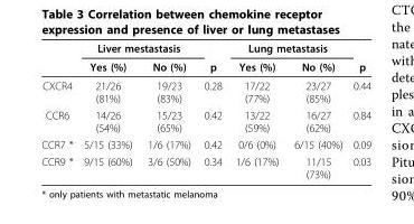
<table><thead><tr><td rowspan="2"></td><td colspan="2">Liver mestastasis</td><td rowspan="2">p</td><td colspan="2">Lung metastasis</td><td rowspan="2">p</td></tr><tr><td>Yes (%)</td><td>No (%)</td><td>Yes (%)</td><td>No (%)</td></tr></thead><tbody><tr><td>CXCR4</td><td>21/26 (81%)</td><td>19/23 (83%)</td><td>0.28</td><td>17/22 (77%)</td><td>23/27 (85%)</td><td>0.44</td></tr><tr><td>CCR6</td><td>14/26 (54%)</td><td>15/23 (65%)</td><td>0.42</td><td>13/22 (59%)</td><td>16/27 (62%)</td><td>0.84</td></tr><tr><td>CCR7 *</td><td>5/15 (33%)</td><td>1/6 (17%)</td><td>0.42</td><td>0/6 (0%)</td><td>6/15 (40%)</td><td>0.09</td></tr><tr><td>CCR9 *</td><td>9/15 (60%)</td><td>3/6 (50%)</td><td>0.34</td><td>1/6 (17%)</td><td>11/15 (73%)</td><td>0.03</td></tr></tbody></table>